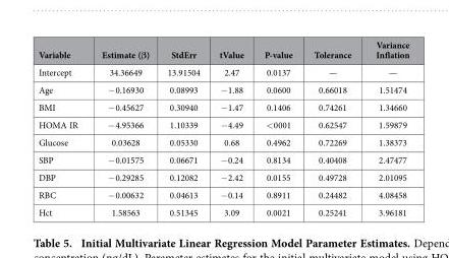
<table><thead><tr><td>Variable</td><td>Estimate (β)</td><td>StdErr</td><td>tValue</td><td>P-value</td><td>Tolerance</td><td>Variance Inflation</td></tr></thead><tbody><tr><td>Intercept</td><td>34.36649</td><td>13.91504</td><td>2.47</td><td>0.0137</td><td>—</td><td>—</td></tr><tr><td>Age</td><td>− 0.16930</td><td>0.08993</td><td>− 1.88</td><td>0.0600</td><td>0.66018</td><td>1.51474</td></tr><tr><td>BMI</td><td>− 0.45627</td><td>0.30940</td><td>− 1.47</td><td>0.1406</td><td>0.74261</td><td>1.34660</td></tr><tr><td>HOMA IR</td><td>− 4.95366</td><td>1.10339</td><td>− 4.49</td><td>&lt; 0001</td><td>0.62547</td><td>1.59879</td></tr><tr><td>Glucose</td><td>0.03628</td><td>0.05330</td><td>0.68</td><td>0.4962</td><td>0.72269</td><td>1.38373</td></tr><tr><td>SBP</td><td>− 0.01575</td><td>0.06671</td><td>− 0.24</td><td>0.8134</td><td>0.40408</td><td>2.47477</td></tr><tr><td>DBP</td><td>− 0.29285</td><td>0.12082</td><td>− 2.42</td><td>0.0155</td><td>0.49728</td><td>2.01095</td></tr><tr><td>RBC</td><td>− 0.00632</td><td>0.04613</td><td>− 0.14</td><td>0.8911</td><td>0.24482</td><td>4.08458</td></tr><tr><td>Hct</td><td>1.58563</td><td>0.51345</td><td>3.09</td><td>0.0021</td><td>0.25241</td><td>3.96181</td></tr></tbody></table>